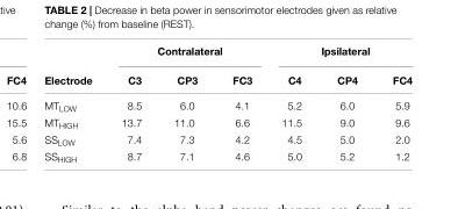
<table><thead><tr><td rowspan="2">Electrode</td><td colspan="3">Contralateral</td><td colspan="3">Ipsilateral</td></tr><tr><td>C3</td><td>CP3</td><td>FC3</td><td>C4</td><td>CP4</td><td>FC4</td></tr></thead><tbody><tr><td>MT<sub>LOW</sub></td><td>8.5</td><td>6.0</td><td>4.1</td><td>5.2</td><td>6.0</td><td>5.9</td></tr><tr><td>MT<sub>HIGH</sub></td><td>13.7</td><td>11.0</td><td>6.6</td><td>11.5</td><td>9.0</td><td>9.6</td></tr><tr><td>SS<sub>LOW</sub></td><td>7.4</td><td>7.3</td><td>4.2</td><td>4.5</td><td>5.0</td><td>2.0</td></tr><tr><td>SS<sub>HIGH</sub></td><td>8.7</td><td>7.1</td><td>4.6</td><td>5.0</td><td>5.2</td><td>1.2</td></tr></tbody></table>